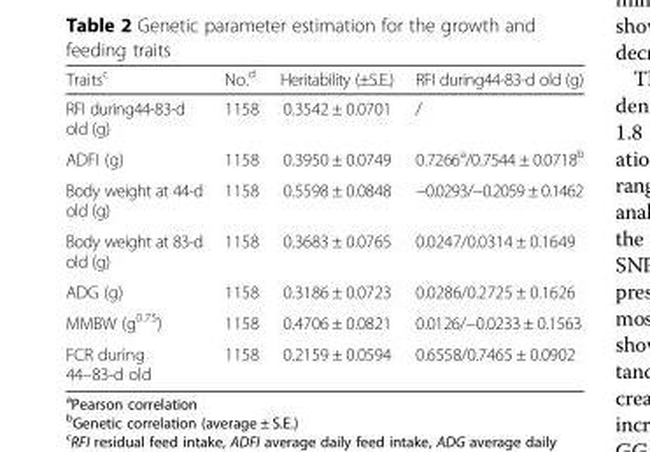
<table><thead><tr><td>Traits<sup>c</sup></td><td>No.<sup>d</sup></td><td>Heritability (±S.E.)</td><td>RFI during44-83-d old (g)</td></tr></thead><tbody><tr><td>RFI during44-83-d old (g)</td><td>1158</td><td>0.3542 ± 0.0701</td><td>/</td></tr><tr><td>ADFI (g)</td><td>1158</td><td>0.3950 ± 0.0749</td><td>0.7266<sup>a</sup>/0.7544 ± 0.0718<sup>b</sup></td></tr><tr><td>Body weight at 44-d old (g)</td><td>1158</td><td>0.5598 ± 0.0848</td><td>−0.0293/−0.2059 ± 0.1462</td></tr><tr><td>Body weight at 83-d old (g)</td><td>1158</td><td>0.3683 ± 0.0765</td><td>0.0247/0.0314 ± 0.1649</td></tr><tr><td>ADG (g)</td><td>1158</td><td>0.3186 ± 0.0723</td><td>0.0286/0.2725 ± 0.1626</td></tr><tr><td>MMBW (g<sup>0.75</sup>)</td><td>1158</td><td>0.4706 ± 0.0821</td><td>0.0126/−0.0233 ± 0.1563</td></tr><tr><td>FCR during 44–83-d old</td><td>1158</td><td>0.2159 ± 0.0594</td><td>0.6558/0.7465 ± 0.0902</td></tr></tbody></table>